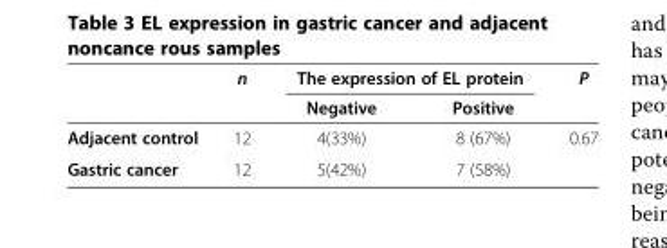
<table><thead><tr><td rowspan="2"></td><td rowspan="2">n</td><td colspan="2">The expression of EL protein</td><td rowspan="2">P</td></tr><tr><td>Negative</td><td>Positive</td></tr></thead><tbody><tr><td>Adjacent control</td><td>12</td><td>4(33%)</td><td>8 (67%)</td><td rowspan="2">0.67</td></tr><tr><td>Gastric cancer</td><td>12</td><td>5(42%)</td><td>7 (58%)</td></tr></tbody></table>